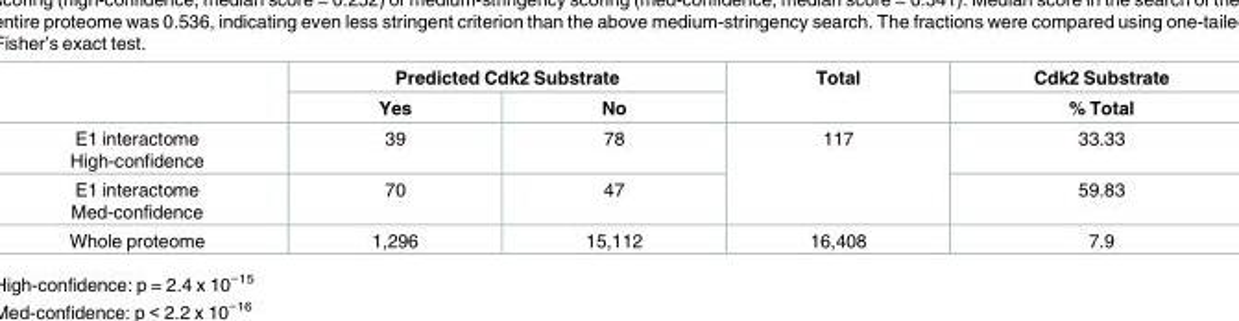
<table><thead><tr><td rowspan="2"></td><td colspan="2">Predicted Cdk2 Substrate</td><td rowspan="2">Total</td><td rowspan="2">Cdk2 Substrate % Total</td></tr><tr><td>Yes</td><td>No</td></tr></thead><tbody><tr><td>E1 interactome High-confidence</td><td>39</td><td>78</td><td rowspan="2">117</td><td>33.33</td></tr><tr><td>E1 interactome Med-confidence</td><td>70</td><td>47</td><td>59.83</td></tr><tr><td>Whole proteome</td><td>1,296</td><td>15,112</td><td>16,408</td><td>7.9</td></tr></tbody></table>